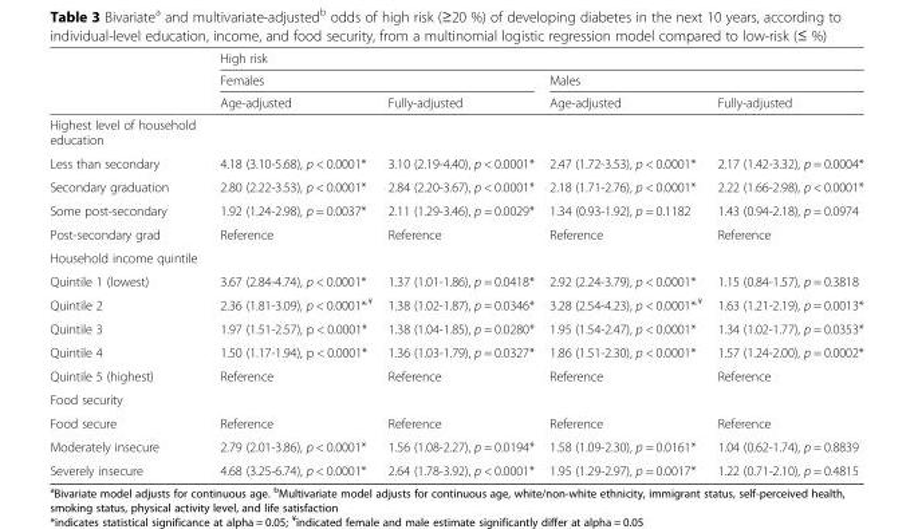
<table><thead><tr><td rowspan="3"></td><td colspan="4">High risk</td></tr><tr><td colspan="2">Females</td><td colspan="2">Males</td></tr><tr><td>Age-adjusted</td><td>Fully-adjusted</td><td>Age-adjusted</td><td>Fully-adjusted</td></tr></thead><tbody><tr><td colspan="5">Highest level of household education</td></tr><tr><td>Less than secondary</td><td>4.18 (3.10-5.68), p &lt; 0.0001*</td><td>3.10 (2.19-4.40), p &lt; 0.0001*</td><td>2.47 (1.72-3.53), p &lt; 0.0001*</td><td>2.17 (1.42-3.32), p = 0.0004*</td></tr><tr><td>Secondary graduation</td><td>2.80 (2.22-3.53), p &lt; 0.0001*</td><td>2.84 (2.20-3.67), p &lt; 0.0001*</td><td>2.18 (1.71-2.76), p &lt; 0.0001*</td><td>2.22 (1.66-2.98), p &lt; 0.0001*</td></tr><tr><td>Some post-secondary</td><td>1.92 (1.24-2.98), p = 0.0037*</td><td>2.11 (1.29-3.46), p = 0.0029*</td><td>1.34 (0.93-1.92), p = 0.1182</td><td>1.43 (0.94-2.18), p = 0.0974</td></tr><tr><td>Post-secondary grad</td><td>Reference</td><td>Reference</td><td>Reference</td><td>Reference</td></tr><tr><td colspan="5">Household income quintile</td></tr><tr><td>Quintile 1 (lowest)</td><td>3.67 (2.84-4.74), p &lt; 0.0001*</td><td>1.37 (1.01-1.86), p = 0.0418*</td><td>2.92 (2.24-3.79), p &lt; 0.0001*</td><td>1.15 (0.84-1.57), p = 0.3818</td></tr><tr><td>Quintile 2</td><td>2.36 (1.81-3.09), p &lt; 0.0001*<sup>,¥</sup></td><td>1.38 (1.02-1.87), p = 0.0346*</td><td>3.28 (2.54-4.23), p &lt; 0.0001*<sup>,¥</sup></td><td>1.63 (1.21-2.19), p = 0.0013*</td></tr><tr><td>Quintile 3</td><td>1.97 (1.51-2.57), p &lt; 0.0001*</td><td>1.38 (1.04-1.85), p = 0.0280*</td><td>1.95 (1.54-2.47), p &lt; 0.0001*</td><td>1.34 (1.02-1.77), p = 0.0353*</td></tr><tr><td>Quintile 4</td><td>1.50 (1.17-1.94), p &lt; 0.0001*</td><td>1.36 (1.03-1.79), p = 0.0327*</td><td>1.86 (1.51-2.30), p &lt; 0.0001*</td><td>1.57 (1.24-2.00), p = 0.0002*</td></tr><tr><td>Quintile 5 (highest)</td><td>Reference</td><td>Reference</td><td>Reference</td><td>Reference</td></tr><tr><td colspan="5">Food security</td></tr><tr><td>Food secure</td><td>Reference</td><td>Reference</td><td>Reference</td><td>Reference</td></tr><tr><td>Moderately insecure</td><td>2.79 (2.01-3.86), p &lt; 0.0001*</td><td>1.56 (1.08-2.27), p = 0.0194*</td><td>1.58 (1.09-2.30), p = 0.0161*</td><td>1.04 (0.62-1.74), p = 0.8839</td></tr><tr><td>Severely insecure</td><td>4.68 (3.25-6.74), p &lt; 0.0001*</td><td>2.64 (1.78-3.92), p &lt; 0.0001*</td><td>1.95 (1.29-2.97), p = 0.0017*</td><td>1.22 (0.71-2.10), p = 0.4815</td></tr></tbody></table>